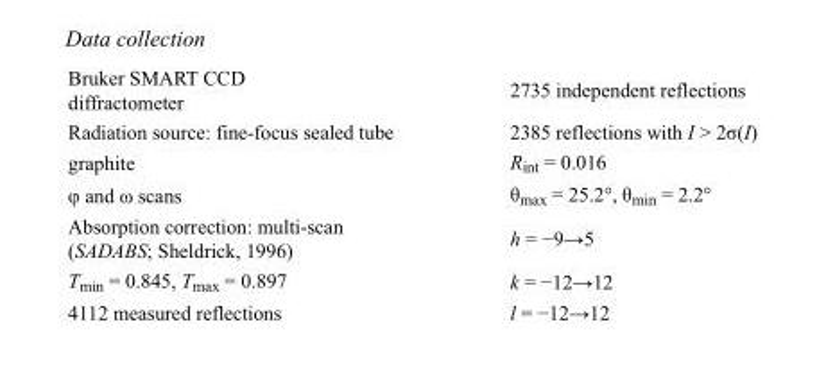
<table><tbody><tr><td>Bruker SMART CCD diffractometer</td><td>2735 independent reflections</td></tr><tr><td>Radiation source: fine-focus sealed tube</td><td>2385 reflections with I &gt; 2σ(I)</td></tr><tr><td>graphite</td><td>R<sub>int</sub> = 0.016</td></tr><tr><td>φ and ω scans</td><td>θ<sub>max</sub> = 25.2°, θ<sub>min</sub> = 2.2°</td></tr><tr><td>Absorption correction: multi-scan (SADABS; Sheldrick, 1996)</td><td>h = −9→5</td></tr><tr><td>T<sub>min</sub> = 0.845, T<sub>max</sub> = 0.897</td><td>k = −12→12</td></tr><tr><td>4112 measured reflections</td><td>l = −12→12</td></tr></tbody></table>